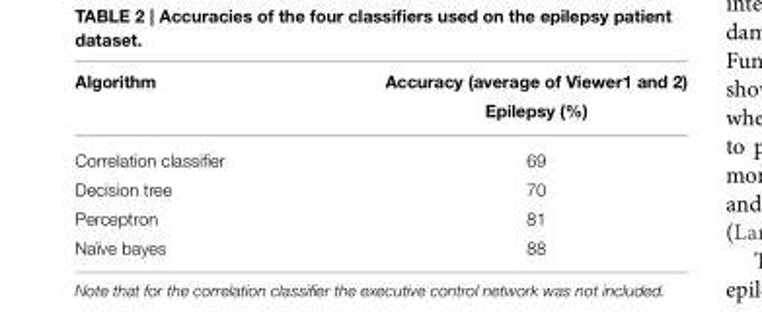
<table><thead><tr><td rowspan="2">Algorithm</td><td rowspan="2">Accuracy (average of Viewer1 and 2) Epilepsy (%)</td></tr><tr></tr></thead><tbody><tr><td>Correlation classifier</td><td>69</td></tr><tr><td>Decision tree</td><td>70</td></tr><tr><td>Perceptron</td><td>81</td></tr><tr><td>Naïve bayes</td><td>88</td></tr></tbody></table>